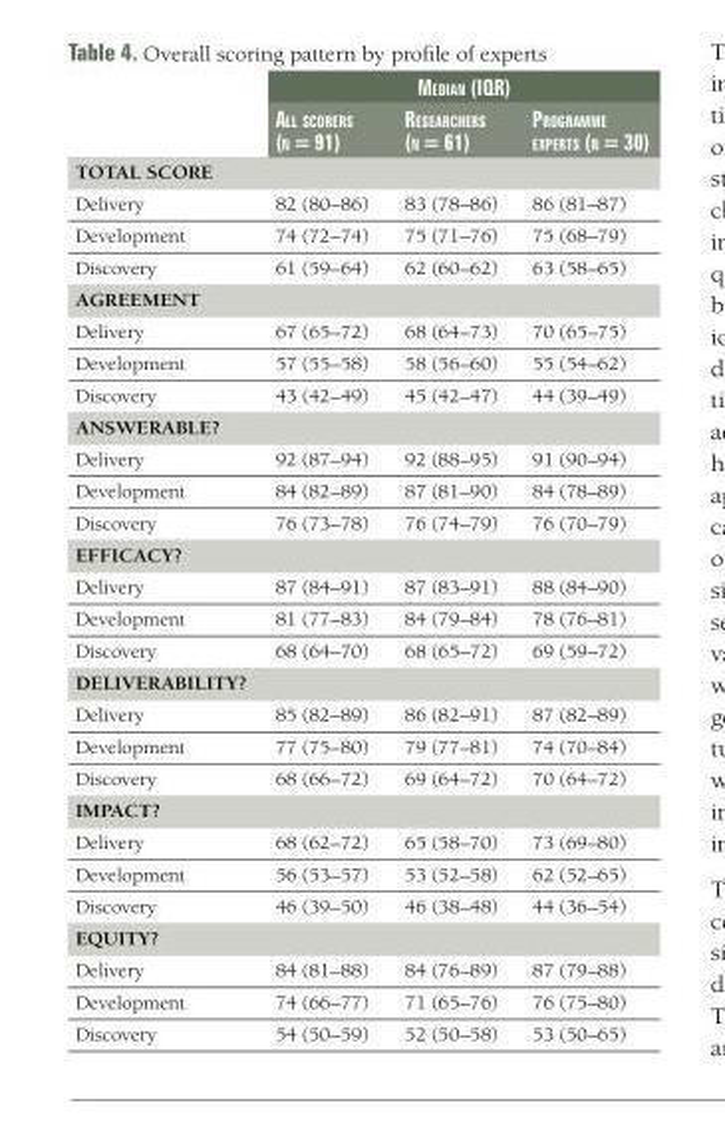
<table><thead><tr><td rowspan="2"></td><td colspan="3">meDian (iqR)</td></tr><tr><td>all scoReRs (n = 91)</td><td>ReseaRcheRs (n = 61)</td><td>pRogRamme expeRts (n = 30)</td></tr></thead><tbody><tr><td colspan="4">TOTAL SCORE</td></tr><tr><td>Delivery</td><td>82 (80–86)</td><td>83 (78–86)</td><td>86 (81–87)</td></tr><tr><td>Development</td><td>74 (72–74)</td><td>75 (71–76)</td><td>75 (68–79)</td></tr><tr><td>Discovery</td><td>61 (59–64)</td><td>62 (60–62)</td><td>63 (58–65)</td></tr><tr><td colspan="4">AGREEMENT</td></tr><tr><td>Delivery</td><td>67 (65–72)</td><td>68 (64–73)</td><td>70 (65–75)</td></tr><tr><td>Development</td><td>57 (55–58)</td><td>58 (56–60)</td><td>55 (54–62)</td></tr><tr><td>Discovery</td><td>43 (42–49)</td><td>45 (42–47)</td><td>44 (39–49)</td></tr><tr><td colspan="4">ANSWERABLE?</td></tr><tr><td>Delivery</td><td>92 (87–94)</td><td>92 (88–95)</td><td>91 (90–94)</td></tr><tr><td>Development</td><td>84 (82–89)</td><td>87 (81–90)</td><td>84 (78–89)</td></tr><tr><td>Discovery</td><td>76 (73–78)</td><td>76 (74–79)</td><td>76 (70–79)</td></tr><tr><td colspan="4">EFFICACY?</td></tr><tr><td>Delivery</td><td>87 (84–91)</td><td>87 (83–91)</td><td>88 (84–90)</td></tr><tr><td>Development</td><td>81 (77–83)</td><td>84 (79–84)</td><td>78 (76–81)</td></tr><tr><td>Discovery</td><td>68 (64–70)</td><td>68 (65–72)</td><td>69 (59–72)</td></tr><tr><td colspan="4">DELIVERABILITY?</td></tr><tr><td>Delivery</td><td>85 (82–89)</td><td>86 (82–91)</td><td>87 (82–89)</td></tr><tr><td>Development</td><td>77 (75–80)</td><td>79 (77–81)</td><td>74 (70–84)</td></tr><tr><td>Discovery</td><td>68 (66–72)</td><td>69 (64–72)</td><td>70 (64–72)</td></tr><tr><td colspan="4">IMPACT?</td></tr><tr><td>Delivery</td><td>68 (62–72)</td><td>65 (58–70)</td><td>73 (69–80)</td></tr><tr><td>Development</td><td>56 (53–57)</td><td>53 (52–58)</td><td>62 (52–65)</td></tr><tr><td>Discovery</td><td>46 (39–50)</td><td>46 (38–48)</td><td>44 (36–54)</td></tr><tr><td colspan="4">EQUITY?</td></tr><tr><td>Delivery</td><td>84 (81–88)</td><td>84 (76–89)</td><td>87 (79–88)</td></tr><tr><td>Development</td><td>74 (66–77)</td><td>71 (65–76)</td><td>76 (75–80)</td></tr><tr><td>Discovery</td><td>54 (50–59)</td><td>52 (50–58)</td><td>53 (50–65)</td></tr></tbody></table>